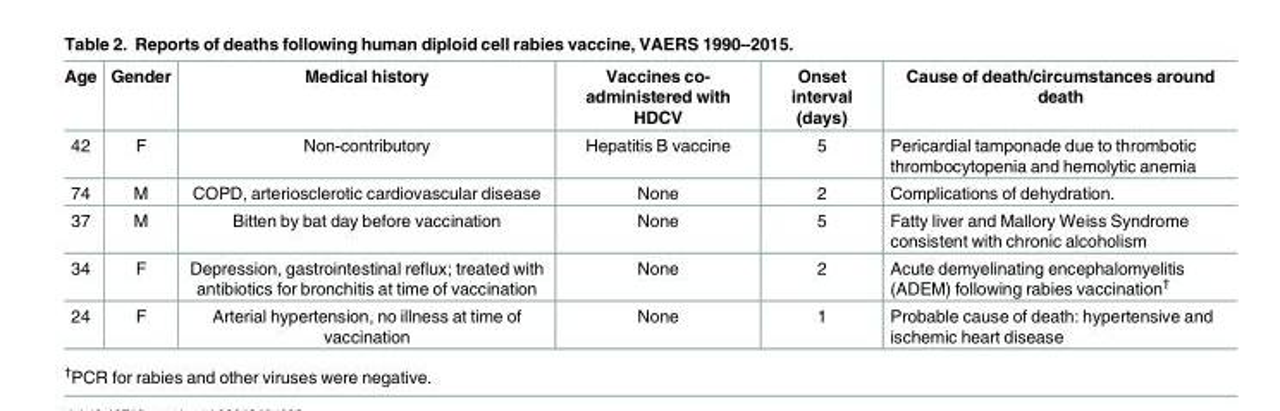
<table><thead><tr><td>Age</td><td>Gender</td><td>Medical history</td><td>Vaccines co- administered with HDCV</td><td>Onset interval (days)</td><td>Cause of death/circumstances around death</td></tr></thead><tbody><tr><td>42</td><td>F</td><td>Non-contributory</td><td>Hepatitis B vaccine</td><td>5</td><td>Pericardial tamponade due to thrombotic thrombocytopenia and hemolytic anemia</td></tr><tr><td>74</td><td>M</td><td>COPD, arteriosclerotic cardiovascular disease</td><td>None</td><td>2</td><td>Complications of dehydration.</td></tr><tr><td>37</td><td>M</td><td>Bitten by bat day before vaccination</td><td>None</td><td>5</td><td>Fatty liver and Mallory Weiss Syndrome consistent with chronic alcoholism</td></tr><tr><td>34</td><td>F</td><td>Depression, gastrointestinal reflux; treated with antibiotics for bronchitis at time of vaccination</td><td>None</td><td>2</td><td>Acute demyelinating encephalomyelitis (ADEM) following rabies vaccination<sup>†</sup></td></tr><tr><td>24</td><td>F</td><td>Arterial hypertension, no illness at time of vaccination</td><td>None</td><td>1</td><td>Probable cause of death: hypertensive and ischemic heart disease</td></tr></tbody></table>